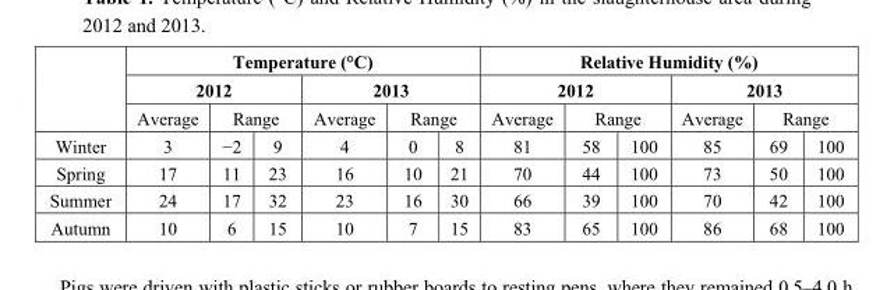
<table><thead><tr><td rowspan="4">Winter</td><td colspan="6">Temperature (°C)</td><td colspan="6">Relative Humidity (%)</td></tr><tr><td colspan="3">2012</td><td colspan="3">2013</td><td colspan="3">2012</td><td colspan="3">2013</td></tr><tr><td rowspan="2">Average 3</td><td colspan="2">Range</td><td rowspan="2">Average 4</td><td colspan="2">Range</td><td rowspan="2">Average 81</td><td colspan="2">Range</td><td rowspan="2">Average 85</td><td colspan="2">Range</td></tr><tr><td>−2</td><td>9</td><td>0</td><td>8</td><td>58</td><td>100</td><td>69</td><td>100</td></tr></thead><tbody><tr><td>Spring</td><td>17</td><td>11</td><td>23</td><td>16</td><td>10</td><td>21</td><td>70</td><td>44</td><td>100</td><td>73</td><td>50</td><td>100</td></tr><tr><td>Summer</td><td>24</td><td>17</td><td>32</td><td>23</td><td>16</td><td>30</td><td>66</td><td>39</td><td>100</td><td>70</td><td>42</td><td>100</td></tr><tr><td>Autumn</td><td>10</td><td>6</td><td>15</td><td>10</td><td>7</td><td>15</td><td>83</td><td>65</td><td>100</td><td>86</td><td>68</td><td>100</td></tr></tbody></table>